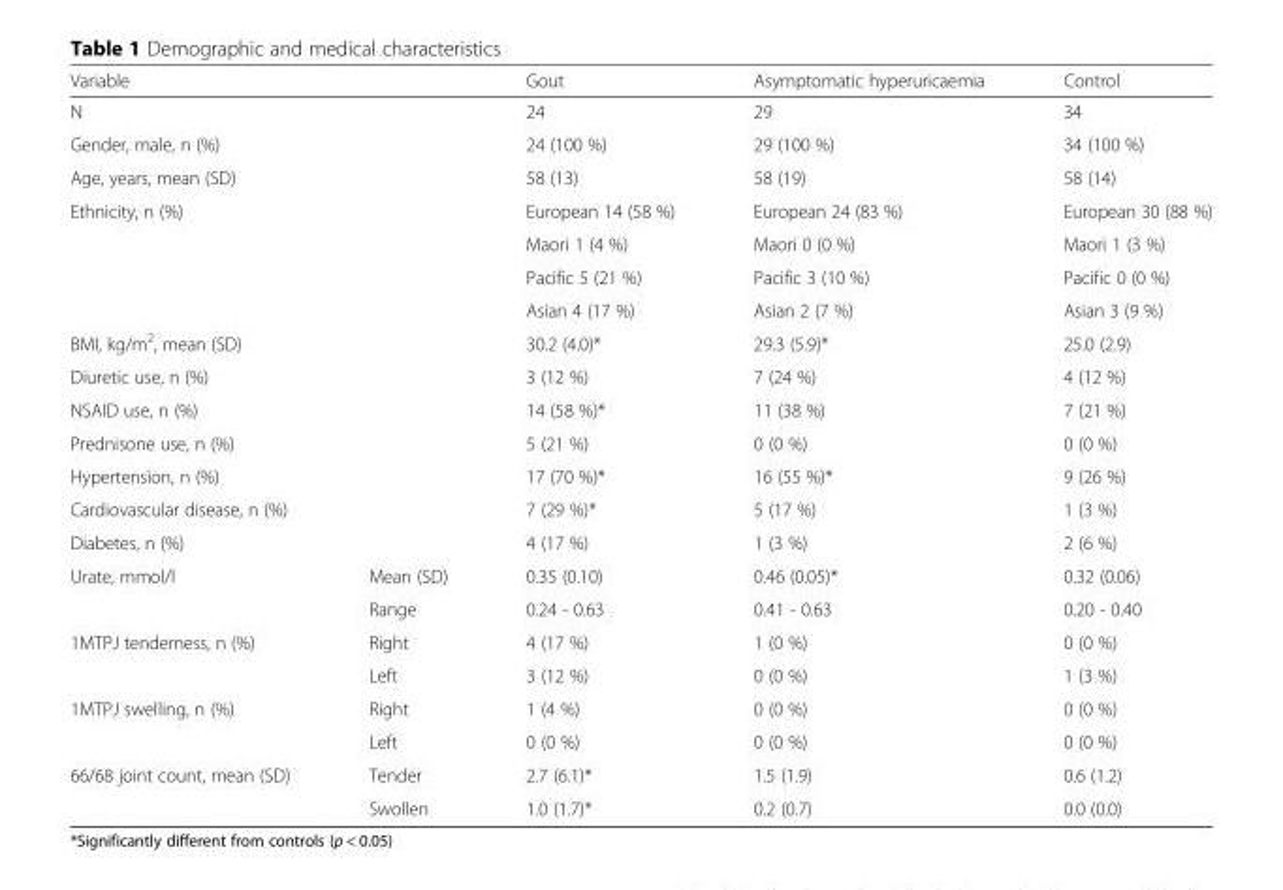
<table><thead><tr><td colspan="2">Variable</td><td>Gout</td><td>Asymptomatic hyperuricaemia</td><td>Control</td></tr></thead><tbody><tr><td colspan="2">N</td><td>24</td><td>29</td><td>34</td></tr><tr><td colspan="2">Gender, male, n (%)</td><td>24 (100 %)</td><td>29 (100 %)</td><td>34 (100 %)</td></tr><tr><td colspan="2">Age, years, mean (SD)</td><td>58 (13)</td><td>58 (19)</td><td>58 (14)</td></tr><tr><td rowspan="4" colspan="2">Ethnicity, n (%)</td><td>European 14 (58 %)</td><td>European 24 (83 %)</td><td>European 30 (88 %)</td></tr><tr><td>Maori 1 (4 %)</td><td>Maori 0 (0 %)</td><td>Maori 1 (3 %)</td></tr><tr><td>Pacific 5 (21 %)</td><td>Pacific 3 (10 %)</td><td>Pacific 0 (0 %)</td></tr><tr><td>Asian 4 (17 %)</td><td>Asian 2 (7 %)</td><td>Asian 3 (9 %)</td></tr><tr><td colspan="2">BMI, kg/m<sup>2</sup>, mean (SD)</td><td>30.2 (4.0)*</td><td>29.3 (5.9)*</td><td>25.0 (2.9)</td></tr><tr><td colspan="2">Diuretic use, n (%)</td><td>3 (12 %)</td><td>7 (24 %)</td><td>4 (12 %)</td></tr><tr><td colspan="2">NSAID use, n (%)</td><td>14 (58 %)*</td><td>11 (38 %)</td><td>7 (21 %)</td></tr><tr><td colspan="2">Prednisone use, n (%)</td><td>5 (21 %)</td><td>0 (0 %)</td><td>0 (0 %)</td></tr><tr><td colspan="2">Hypertension, n (%)</td><td>17 (70 %)*</td><td>16 (55 %)*</td><td>9 (26 %)</td></tr><tr><td colspan="2">Cardiovascular disease, n (%)</td><td>7 (29 %)*</td><td>5 (17 %)</td><td>1 (3 %)</td></tr><tr><td colspan="2">Diabetes, n (%)</td><td>4 (17 %)</td><td>1 (3 %)</td><td>2 (6 %)</td></tr><tr><td rowspan="2">Urate, mmol/l</td><td>Mean (SD)</td><td>0.35 (0.10)</td><td>0.46 (0.05)*</td><td>0.32 (0.06)</td></tr><tr><td>Range</td><td>0.24 - 0.63</td><td>0.41 - 0.63</td><td>0.20 - 0.40</td></tr><tr><td rowspan="2">1MTPJ tenderness, n (%)</td><td>Right</td><td>4 (17 %)</td><td>1 (0 %)</td><td>0 (0 %)</td></tr><tr><td>Left</td><td>3 (12 %)</td><td>0 (0 %)</td><td>1 (3 %)</td></tr><tr><td rowspan="2">1MTPJ swelling, n (%)</td><td>Right</td><td>1 (4 %)</td><td>0 (0 %)</td><td>0 (0 %)</td></tr><tr><td>Left</td><td>0 (0 %)</td><td>0 (0 %)</td><td>0 (0 %)</td></tr><tr><td rowspan="2">66/68 joint count, mean (SD)</td><td>Tender</td><td>2.7 (6.1)*</td><td>1.5 (1.9)</td><td>0.6 (1.2)</td></tr><tr><td>Swollen</td><td>1.0 (1.7)*</td><td>0.2 (0.7)</td><td>0.0 (0.0)</td></tr></tbody></table>